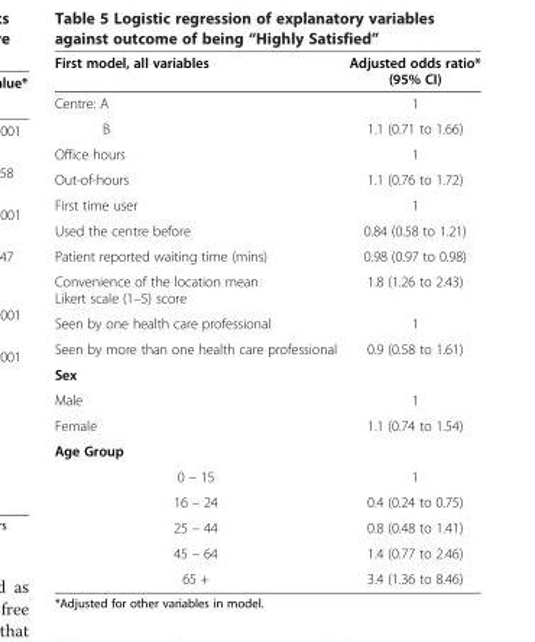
<table><thead><tr><td>First model, all variables</td><td>Adjusted odds ratio* (95% CI)</td></tr></thead><tbody><tr><td>Centre: A</td><td>1</td></tr><tr><td>B</td><td>1.1 (0.71 to 1.66)</td></tr><tr><td>Office hours</td><td>1</td></tr><tr><td>Out-of-hours</td><td>1.1 (0.76 to 1.72)</td></tr><tr><td>First time user</td><td>1</td></tr><tr><td>Used the centre before</td><td>0.84 (0.58 to 1.21)</td></tr><tr><td>Patient reported waiting time (mins)</td><td>0.98 (0.97 to 0.98)</td></tr><tr><td>Convenience of the location mean Likert scale (1–5) score</td><td>1.8 (1.26 to 2.43)</td></tr><tr><td>Seen by one health care professional</td><td>1</td></tr><tr><td>Seen by more than one health care professional</td><td>0.9 (0.58 to 1.61)</td></tr><tr><td colspan="2">Sex</td></tr><tr><td>Male</td><td>1</td></tr><tr><td>Female</td><td>1.1 (0.74 to 1.54)</td></tr><tr><td colspan="2">Age Group</td></tr><tr><td>0 – 15</td><td>1</td></tr><tr><td>16 – 24</td><td>0.4 (0.24 to 0.75)</td></tr><tr><td>25 – 44</td><td>0.8 (0.48 to 1.41)</td></tr><tr><td>45 – 64</td><td>1.4 (0.77 to 2.46)</td></tr><tr><td>65 +</td><td>3.4 (1.36 to 8.46)</td></tr></tbody></table>